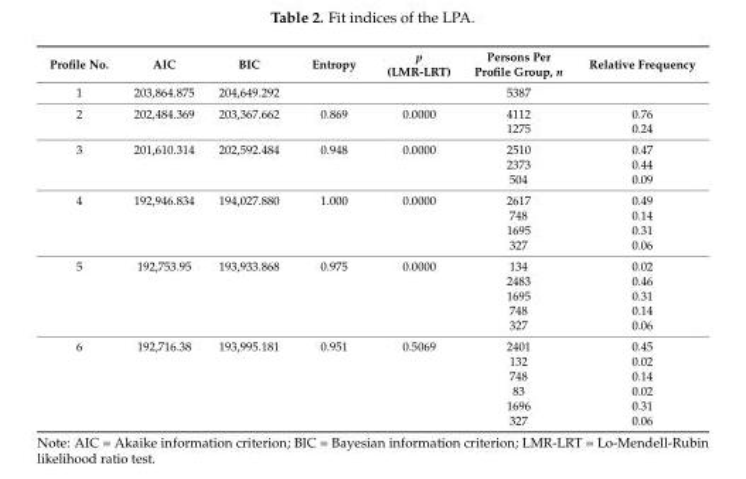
<table><thead><tr><td>Profile No.</td><td>AIC</td><td>BIC</td><td>Entropy</td><td>p (LMR-LRT)</td><td>Persons Per Profile Group, n</td><td>Relative Frequency</td></tr></thead><tbody><tr><td>1</td><td>203,864.875</td><td>204,649.292</td><td></td><td></td><td>5387</td><td></td></tr><tr><td rowspan="2">2</td><td>202,484.369</td><td>203,367.662</td><td>0.869</td><td>0.0000</td><td>4112</td><td>0.76</td></tr><tr><td></td><td></td><td></td><td></td><td>1275</td><td>0.24</td></tr><tr><td rowspan="3">3</td><td>201,610.314</td><td>202,592.484</td><td>0.948</td><td>0.0000</td><td>2510</td><td>0.47</td></tr><tr><td></td><td></td><td></td><td></td><td>2373</td><td>0.44</td></tr><tr><td></td><td></td><td></td><td></td><td>504</td><td>0.09</td></tr><tr><td rowspan="4">4</td><td>192,946.834</td><td>194,027.880</td><td>1.000</td><td>0.0000</td><td>2617</td><td>0.49</td></tr><tr><td></td><td></td><td></td><td></td><td>748</td><td>0.14</td></tr><tr><td></td><td></td><td></td><td></td><td>1695</td><td>0.31</td></tr><tr><td></td><td></td><td></td><td></td><td>327</td><td>0.06</td></tr><tr><td rowspan="5">5</td><td>192,753.95</td><td>193,933.868</td><td>0.975</td><td>0.0000</td><td>134</td><td>0.02</td></tr><tr><td></td><td></td><td></td><td></td><td>2483</td><td>0.46</td></tr><tr><td></td><td></td><td></td><td></td><td>1695</td><td>0.31</td></tr><tr><td></td><td></td><td></td><td></td><td>748</td><td>0.14</td></tr><tr><td></td><td></td><td></td><td></td><td>327</td><td>0.06</td></tr><tr><td rowspan="6">6</td><td>192,716.38</td><td>193,995.181</td><td>0.951</td><td>0.5069</td><td>2401</td><td>0.45</td></tr><tr><td></td><td></td><td></td><td></td><td>132</td><td>0.02</td></tr><tr><td></td><td></td><td></td><td></td><td>748</td><td>0.14</td></tr><tr><td></td><td></td><td></td><td></td><td>83</td><td>0.02</td></tr><tr><td></td><td></td><td></td><td></td><td>1696</td><td>0.31</td></tr><tr><td></td><td></td><td></td><td></td><td>327</td><td>0.06</td></tr></tbody></table>